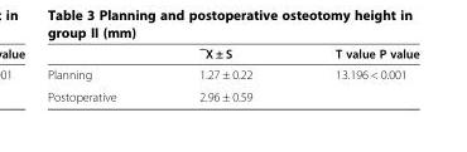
<table><thead><tr><td></td><td>‾X ± S</td><td>T value P value</td></tr></thead><tbody><tr><td>Planning</td><td>1.27 ± 0.22</td><td>13.196 &lt; 0.001</td></tr><tr><td>Postoperative</td><td>2.96 ± 0.59</td><td></td></tr></tbody></table>